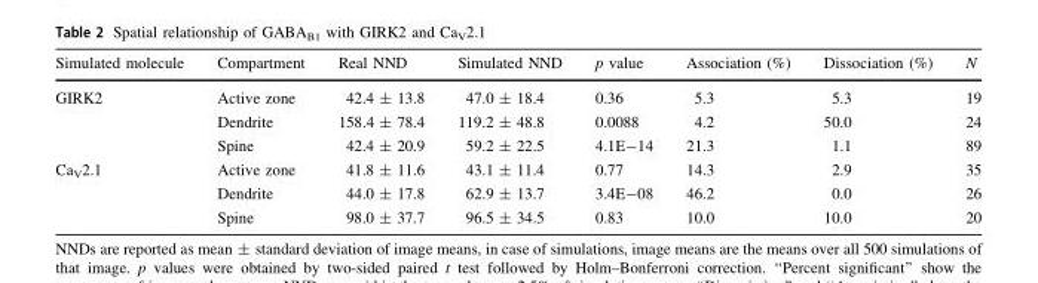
<table><thead><tr><td>Simulated molecule</td><td>Compartment</td><td>Real NND</td><td>Simulated NND</td><td>p value</td><td>Association (%)</td><td>Dissociation (%)</td><td>N</td></tr></thead><tbody><tr><td rowspan="3">GIRK2</td><td>Active zone</td><td>42.4 ± 13.8</td><td>47.0 ± 18.4</td><td>0.36</td><td>5.3</td><td>5.3</td><td>19</td></tr><tr><td>Dendrite</td><td>158.4 ± 78.4</td><td>119.2 ± 48.8</td><td>0.0088</td><td>4.2</td><td>50.0</td><td>24</td></tr><tr><td>Spine</td><td>42.4 ± 20.9</td><td>59.2 ± 22.5</td><td>4.1E-14</td><td>21.3</td><td>1.1</td><td>89</td></tr><tr><td rowspan="3">Ca<sub>V</sub>2.1</td><td>Active zone</td><td>41.8 ± 11.6</td><td>43.1 ± 11.4</td><td>0.77</td><td>14.3</td><td>2.9</td><td>35</td></tr><tr><td>Dendrite</td><td>44.0 ± 17.8</td><td>62.9 ± 13.7</td><td>3.4E-08</td><td>46.2</td><td>0.0</td><td>26</td></tr><tr><td>Spine</td><td>98.0 ± 37.7</td><td>96.5 ± 34.5</td><td>0.83</td><td>10.0</td><td>10.0</td><td>20</td></tr></tbody></table>